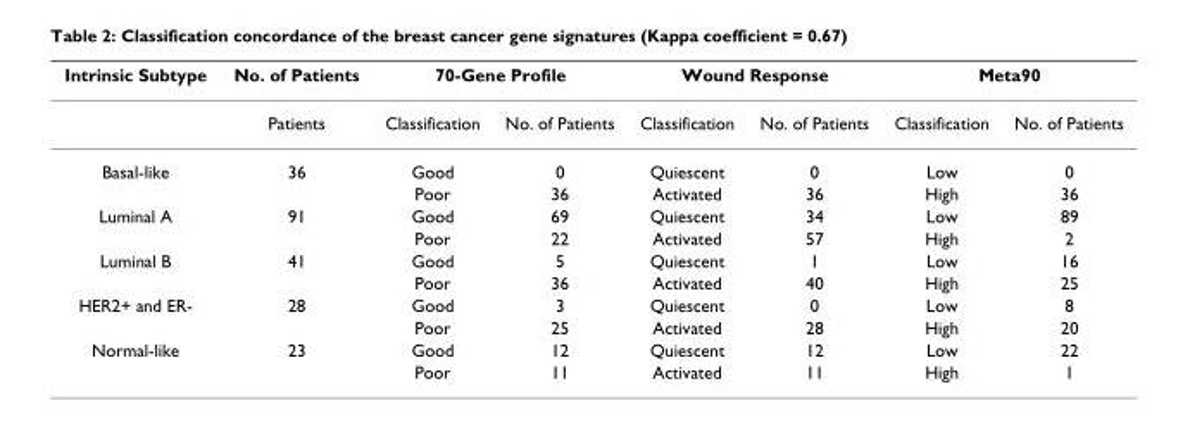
<table><thead><tr><td rowspan="2">Intrinsic Subtype</td><td rowspan="2">No. of Patients Patients</td><td colspan="2">70-Gene Profile</td><td colspan="2">Wound Response</td><td colspan="2">Meta90</td></tr><tr><td>Classification</td><td>No. of Patients</td><td>Classification</td><td>No. of Patients</td><td>Classification</td><td>No. of Patients</td></tr></thead><tbody><tr><td rowspan="2">Basal-like</td><td>36</td><td>Good</td><td>0</td><td>Quiescent</td><td>0</td><td>Low</td><td>0</td></tr><tr><td></td><td>Poor</td><td>36</td><td>Activated</td><td>36</td><td>High</td><td>36</td></tr><tr><td rowspan="2">Luminal A</td><td>91</td><td>Good</td><td>69</td><td>Quiescent</td><td>34</td><td>Low</td><td>89</td></tr><tr><td></td><td>Poor</td><td>22</td><td>Activated</td><td>57</td><td>High</td><td>2</td></tr><tr><td rowspan="2">Luminal B</td><td>41</td><td>Good</td><td>5</td><td>Quiescent</td><td>1</td><td>Low</td><td>16</td></tr><tr><td></td><td>Poor</td><td>36</td><td>Activated</td><td>40</td><td>High</td><td>25</td></tr><tr><td rowspan="2">HER2+ and ER-</td><td>28</td><td>Good</td><td>3</td><td>Quiescent</td><td>0</td><td>Low</td><td>8</td></tr><tr><td></td><td>Poor</td><td>25</td><td>Activated</td><td>28</td><td>High</td><td>20</td></tr><tr><td rowspan="2">Normal-like</td><td>23</td><td>Good</td><td>12</td><td>Quiescent</td><td>12</td><td>Low</td><td>22</td></tr><tr><td></td><td>Poor</td><td>11</td><td>Activated</td><td>11</td><td>High</td><td>1</td></tr></tbody></table>